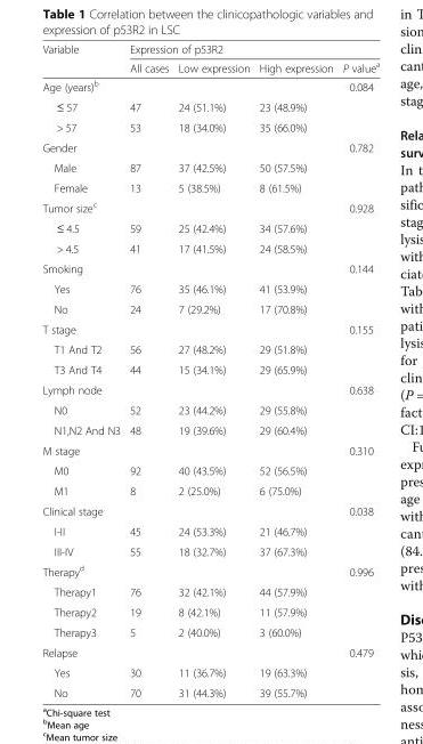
<table><thead><tr><td rowspan="2">Variable</td><td colspan="4">Expression of p53R2</td></tr><tr><td>All cases</td><td>Low expression</td><td>High expression</td><td>P value<sup>a</sup></td></tr></thead><tbody><tr><td>Age (years)<sup>b</sup></td><td></td><td></td><td></td><td>0.084</td></tr><tr><td>≤ 57</td><td>47</td><td>24 (51.1%)</td><td>23 (48.9%)</td><td></td></tr><tr><td>&gt; 57</td><td>53</td><td>18 (34.0%)</td><td>35 (66.0%)</td><td></td></tr><tr><td>Gender</td><td></td><td></td><td></td><td>0.782</td></tr><tr><td>Male</td><td>87</td><td>37 (42.5%)</td><td>50 (57.5%)</td><td></td></tr><tr><td>Female</td><td>13</td><td>5 (38.5%)</td><td>8 (61.5%)</td><td></td></tr><tr><td>Tumor size<sup>c</sup></td><td></td><td></td><td></td><td>0.928</td></tr><tr><td>≤ 4.5</td><td>59</td><td>25 (42.4%)</td><td>34 (57.6%)</td><td></td></tr><tr><td>&gt; 4.5</td><td>41</td><td>17 (41.5%)</td><td>24 (58.5%)</td><td></td></tr><tr><td>Smoking</td><td></td><td></td><td></td><td>0.144</td></tr><tr><td>Yes</td><td>76</td><td>35 (46.1%)</td><td>41 (53.9%)</td><td></td></tr><tr><td>No</td><td>24</td><td>7 (29.2%)</td><td>17 (70.8%)</td><td></td></tr><tr><td>T stage</td><td></td><td></td><td></td><td>0.155</td></tr><tr><td>T1 And T2</td><td>56</td><td>27 (48.2%)</td><td>29 (51.8%)</td><td></td></tr><tr><td>T3 And T4</td><td>44</td><td>15 (34.1%)</td><td>29 (65.9%)</td><td></td></tr><tr><td>Lymph node</td><td></td><td></td><td></td><td>0.638</td></tr><tr><td>N0</td><td>52</td><td>23 (44.2%)</td><td>29 (55.8%)</td><td></td></tr><tr><td>N1,N2 And N3</td><td>48</td><td>19 (39.6%)</td><td>29 (60.4%)</td><td></td></tr><tr><td>M stage</td><td></td><td></td><td></td><td>0.310</td></tr><tr><td>M0</td><td>92</td><td>40 (43.5%)</td><td>52 (56.5%)</td><td></td></tr><tr><td>M1</td><td>8</td><td>2 (25.0%)</td><td>6 (75.0%)</td><td></td></tr><tr><td>Clinical stage</td><td></td><td></td><td></td><td>0.038</td></tr><tr><td>I-II</td><td>45</td><td>24 (53.3%)</td><td>21 (46.7%)</td><td></td></tr><tr><td>III-IV</td><td>55</td><td>18 (32.7%)</td><td>37 (67.3%)</td><td></td></tr><tr><td>Therapy<sup>d</sup></td><td></td><td></td><td></td><td>0.996</td></tr><tr><td>Therapy1</td><td>76</td><td>32 (42.1%)</td><td>44 (57.9%)</td><td></td></tr><tr><td>Therapy2</td><td>19</td><td>8 (42.1%)</td><td>11 (57.9%)</td><td></td></tr><tr><td>Therapy3</td><td>5</td><td>2 (40.0%)</td><td>3 (60.0%)</td><td></td></tr><tr><td>Relapse</td><td></td><td></td><td></td><td>0.479</td></tr><tr><td>Yes</td><td>30</td><td>11 (36.7%)</td><td>19 (63.3%)</td><td></td></tr><tr><td>No</td><td>70</td><td>31 (44.3%)</td><td>39 (55.7%)</td><td></td></tr></tbody></table>